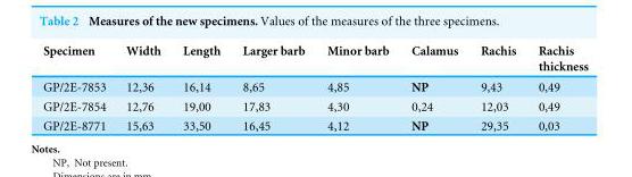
<table><thead><tr><td>Specimen</td><td>Width</td><td>Length</td><td>Larger barb</td><td>Minor barb</td><td>Calamus</td><td>Rachis</td><td>Rachis thickness</td></tr></thead><tbody><tr><td>GP/2E-7853</td><td>12,36</td><td>16,14</td><td>8,65</td><td>4,85</td><td>NP</td><td>9,43</td><td>0,49</td></tr><tr><td>GP/2E-7854</td><td>12,76</td><td>19,00</td><td>17,83</td><td>4,30</td><td>0,24</td><td>12,03</td><td>0,49</td></tr><tr><td>GP/2E-8771</td><td>15,63</td><td>33,50</td><td>16,45</td><td>4,12</td><td>NP</td><td>29,35</td><td>0,03</td></tr></tbody></table>